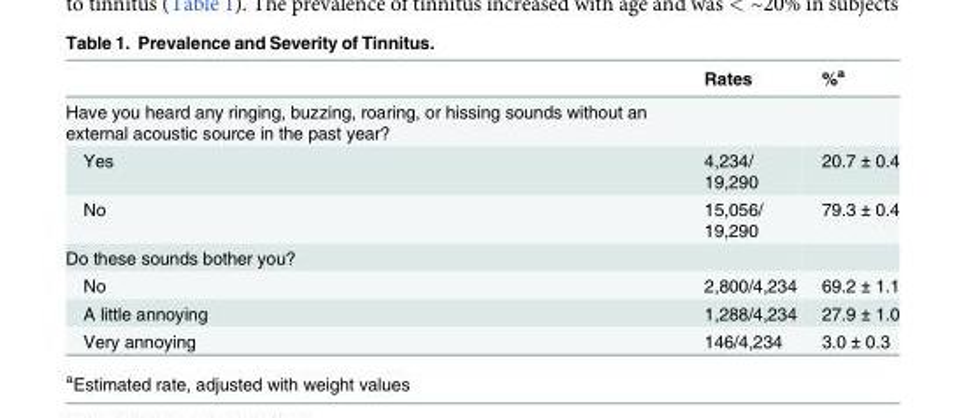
<table><thead><tr><td></td><td>Rates</td><td>%<sup>a</sup></td></tr></thead><tbody><tr><td colspan="3">Have you heard any ringing, buzzing, roaring, or hissing sounds without an external acoustic source in the past year?</td></tr><tr><td>Yes</td><td>4,234/ 19,290</td><td>20.7 ± 0.4</td></tr><tr><td>No</td><td>15,056/ 19,290</td><td>79.3 ± 0.4</td></tr><tr><td colspan="3">Do these sounds bother you?</td></tr><tr><td>No</td><td>2,800/4,234</td><td>69.2 ± 1.1</td></tr><tr><td>A little annoying</td><td>1,288/4,234</td><td>27.9 ± 1.0</td></tr><tr><td>Very annoying</td><td>146/4,234</td><td>3.0 ± 0.3</td></tr></tbody></table>